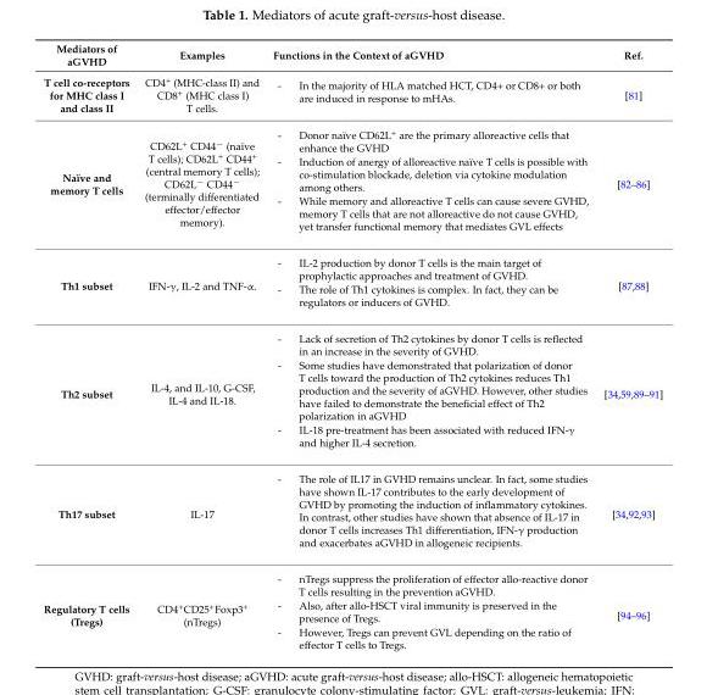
<table><thead><tr><td>Mediators of aGVHD</td><td>Examples</td><td>Functions in the Context of aGVHD</td><td>Ref.</td></tr></thead><tbody><tr><td>T cell co-receptors for MHC class I and class II</td><td>CD4<sup>+</sup> (MHC-class II) and CD8<sup>+</sup> (MHC class I) T cells.</td><td>- In the majority of HLA matched HCT, CD4+ or CD8+ or both are induced in response to mHAs.</td><td>[81]</td></tr><tr><td>Naïve and memory T cells</td><td>CD62L<sup>+</sup> CD44<sup>−</sup> (naïve T cells); CD62L<sup>+</sup> CD44<sup>+</sup> (central memory T cells); CD62L<sup>−</sup> CD44<sup>−</sup> (terminally differentiated effector/effector memory).</td><td>- Donor naïve CD62L<sup>+</sup> are the primary alloreactive cells that enhance the GVHD - Induction of anergy of alloreactive naïve T cells is possible with co-stimulation blockade, deletion via cytokine modulation among others. - While memory and alloreactive T cells can cause severe GVHD, memory T cells that are not alloreactive do not cause GVHD, yet transfer functional memory that mediates GVL effects</td><td>[82–86]</td></tr><tr><td>Th1 subset</td><td>IFN-γ, IL-2 and TNF-α.</td><td>- IL-2 production by donor T cells is the main target of prophylactic approaches and treatment of GVHD. - The role of Th1 cytokines is complex. In fact, they can be regulators or inducers of GVHD.</td><td>[87,88]</td></tr><tr><td>Th2 subset</td><td>IL-4, and IL-10, G-CSF, IL-4 and IL-18.</td><td>- Lack of secretion of Th2 cytokines by donor T cells is reflected in an increase in the severity of GVHD. - Some studies have demonstrated that polarization of donor T cells toward the production of Th2 cytokines reduces Th1 production and the severity of aGVHD. However, other studies have failed to demonstrate the beneficial effect of Th2 polarization in aGVHD - IL-18 pre-treatment has been associated with reduced IFN-γ and higher IL-4 secretion.</td><td>[34,59,89–91]</td></tr><tr><td>Th17 subset</td><td>IL-17</td><td>- The role of IL17 in GVHD remains unclear. In fact, some studies have shown IL-17 contributes to the early development of GVHD by promoting the induction of inflammatory cytokines. In contrast, other studies have shown that absence of IL-17 in donor T cells increases Th1 differentiation, IFN-γ production and exacerbates aGVHD in allogeneic recipients.</td><td>[34,92,93]</td></tr><tr><td>Regulatory T cells (Tregs)</td><td>CD4<sup>+</sup>CD25<sup>+</sup>Foxp3<sup>+</sup> (nTregs)</td><td>- nTregs suppress the proliferation of effector allo-reactive donor T cells resulting in the prevention aGVHD. - Also, after allo-HSCT viral immunity is preserved in the presence of Tregs. - However, Tregs can prevent GVL depending on the ratio of effector T cells to Tregs.</td><td>[94–96]</td></tr></tbody></table>